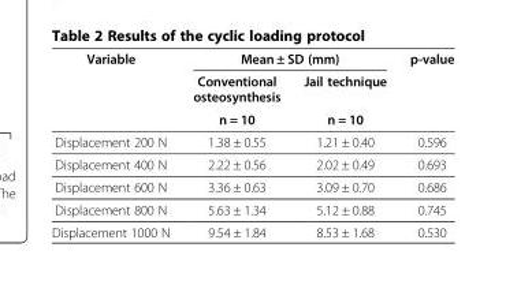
<table><thead><tr><td rowspan="3">Variable</td><td colspan="2">Mean ± SD (mm)</td><td rowspan="3">p-value</td></tr><tr><td rowspan="2">Conventional osteosynthesis n = 10</td><td rowspan="2">Jail technique n = 10</td></tr><tr></tr></thead><tbody><tr><td>Displacement 200 N</td><td>1.38 ± 0.55</td><td>1.21 ± 0.40</td><td>0.596</td></tr><tr><td>Displacement 400 N</td><td>2.22 ± 0.56</td><td>2.02 ± 0.49</td><td>0.693</td></tr><tr><td>Displacement 600 N</td><td>3.36 ± 0.63</td><td>3.09 ± 0.70</td><td>0.686</td></tr><tr><td>Displacement 800 N</td><td>5.63 ± 1.34</td><td>5.12 ± 0.88</td><td>0.745</td></tr><tr><td>Displacement 1000 N</td><td>9.54 ± 1.84</td><td>8.53 ± 1.68</td><td>0.530</td></tr></tbody></table>